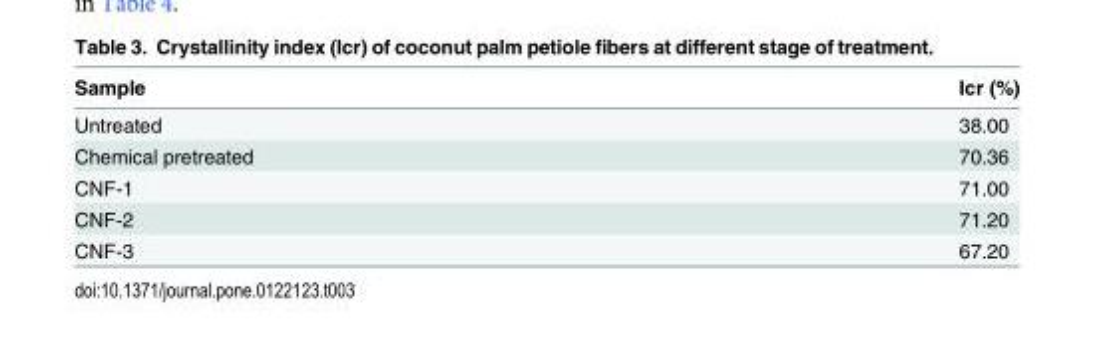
<table><thead><tr><td>Sample</td><td>Icr (%)</td></tr></thead><tbody><tr><td>Untreated</td><td>38.00</td></tr><tr><td>Chemical pretreated</td><td>70.36</td></tr><tr><td>CNF-1</td><td>71.00</td></tr><tr><td>CNF-2</td><td>71.20</td></tr><tr><td>CNF-3</td><td>67.20</td></tr></tbody></table>